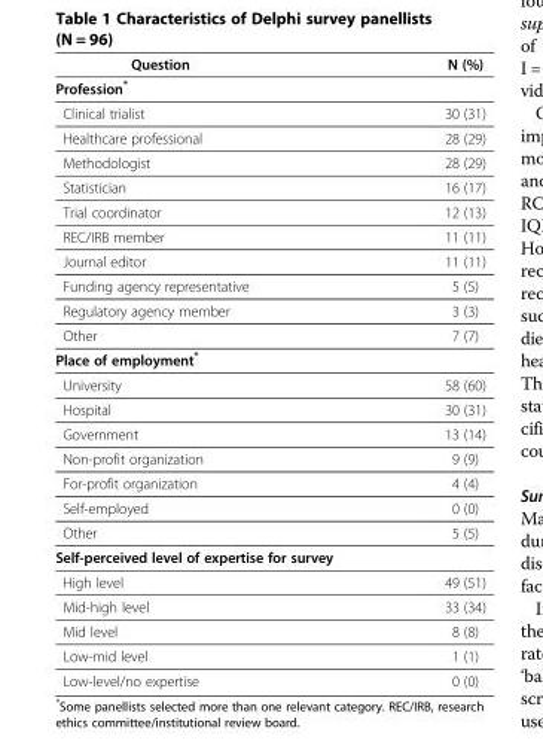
<table><thead><tr><td>Question</td><td>N (%)</td></tr></thead><tbody><tr><td colspan="2">Profession*</td></tr><tr><td>Clinical trialist</td><td>30 (31)</td></tr><tr><td>Healthcare professional</td><td>28 (29)</td></tr><tr><td>Methodologist</td><td>28 (29)</td></tr><tr><td>Statistician</td><td>16 (17)</td></tr><tr><td>Trial coordinator</td><td>12 (13)</td></tr><tr><td>REC/IRB member</td><td>11 (11)</td></tr><tr><td>Journal editor</td><td>11 (11)</td></tr><tr><td>Funding agency representative</td><td>5 (5)</td></tr><tr><td>Regulatory agency member</td><td>3 (3)</td></tr><tr><td>Other</td><td>7 (7)</td></tr><tr><td colspan="2">Place of employment*</td></tr><tr><td>University</td><td>58 (60)</td></tr><tr><td>Hospital</td><td>30 (31)</td></tr><tr><td>Government</td><td>13 (14)</td></tr><tr><td>Non-profit organization</td><td>9 (9)</td></tr><tr><td>For-profit organization</td><td>4 (4)</td></tr><tr><td>Self-employed</td><td>0 (0)</td></tr><tr><td>Other</td><td>5 (5)</td></tr><tr><td colspan="2">Self-perceived level of expertise for survey</td></tr><tr><td>High level</td><td>49 (51)</td></tr><tr><td>Mid-high level</td><td>33 (34)</td></tr><tr><td>Mid level</td><td>8 (8)</td></tr><tr><td>Low-mid level</td><td>1 (1)</td></tr><tr><td>Low-level/no expertise</td><td>0 (0)</td></tr></tbody></table>